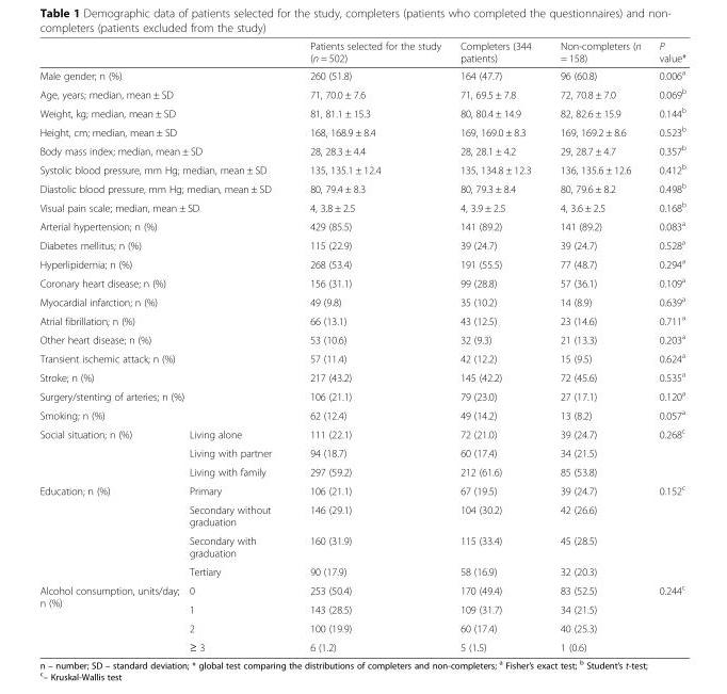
<table><thead><tr><td></td><td></td><td>Patients selected for the study (n = 502)</td><td>Completers (344 patients)</td><td>Non-completers (n = 158)</td><td>P value*</td></tr></thead><tbody><tr><td colspan="2">Male gender; n (%)</td><td>260 (51.8)</td><td>164 (47.7)</td><td>96 (60.8)</td><td>0.006<sup>a</sup></td></tr><tr><td colspan="2">Age, years; median, mean ± SD</td><td>71, 70.0 ± 7.6</td><td>71, 69.5 ± 7.8</td><td>72, 70.8 ± 7.0</td><td>0.069<sup>b</sup></td></tr><tr><td colspan="2">Weight, kg; median, mean ± SD</td><td>81, 81.1 ± 15.3</td><td>80, 80.4 ± 14.9</td><td>82, 82.6 ± 15.9</td><td>0.144<sup>b</sup></td></tr><tr><td colspan="2">Height, cm; median, mean ± SD</td><td>168, 168.9 ± 8.4</td><td>169, 169.0 ± 8.3</td><td>169, 169.2 ± 8.6</td><td>0.523<sup>b</sup></td></tr><tr><td colspan="2">Body mass index; median, mean ± SD</td><td>28, 28.3 ± 4.4</td><td>28, 28.1 ± 4.2</td><td>29, 28.7 ± 4.7</td><td>0.357<sup>b</sup></td></tr><tr><td colspan="2">Systolic blood pressure, mm Hg; median, mean ± SD</td><td>135, 135.1 ± 12.4</td><td>135, 134.8 ± 12.3</td><td>136, 135.6 ± 12.6</td><td>0.412<sup>b</sup></td></tr><tr><td colspan="2">Diastolic blood pressure, mm Hg; median, mean ± SD</td><td>80, 79.4 ± 8.3</td><td>80, 79.3 ± 8.4</td><td>80, 79.6 ± 8.2</td><td>0.498<sup>b</sup></td></tr><tr><td colspan="2">Visual pain scale; median, mean ± SD</td><td>4, 3.8 ± 2.5</td><td>4, 3.9 ± 2.5</td><td>4, 3.6 ± 2.5</td><td>0.168<sup>b</sup></td></tr><tr><td colspan="2">Arterial hypertension; n (%)</td><td>429 (85.5)</td><td>141 (89.2)</td><td>141 (89.2)</td><td>0.083<sup>a</sup></td></tr><tr><td colspan="2">Diabetes mellitus; n (%)</td><td>115 (22.9)</td><td>39 (24.7)</td><td>39 (24.7)</td><td>0.528<sup>a</sup></td></tr><tr><td colspan="2">Hyperlipidemia; n (%)</td><td>268 (53.4)</td><td>191 (55.5)</td><td>77 (48.7)</td><td>0.294<sup>a</sup></td></tr><tr><td colspan="2">Coronary heart disease; n (%)</td><td>156 (31.1)</td><td>99 (28.8)</td><td>57 (36.1)</td><td>0.109<sup>a</sup></td></tr><tr><td colspan="2">Myocardial infarction; n (%)</td><td>49 (9.8)</td><td>35 (10.2)</td><td>14 (8.9)</td><td>0.639<sup>a</sup></td></tr><tr><td colspan="2">Atrial fibrillation; n (%)</td><td>66 (13.1)</td><td>43 (12.5)</td><td>23 (14.6)</td><td>0.711<sup>a</sup></td></tr><tr><td colspan="2">Other heart disease; n (%)</td><td>53 (10.6)</td><td>32 (9.3)</td><td>21 (13.3)</td><td>0.203<sup>a</sup></td></tr><tr><td colspan="2">Transient ischemic attack; n (%)</td><td>57 (11.4)</td><td>42 (12.2)</td><td>15 (9.5)</td><td>0.624<sup>a</sup></td></tr><tr><td colspan="2">Stroke; n (%)</td><td>217 (43.2)</td><td>145 (42.2)</td><td>72 (45.6)</td><td>0.535<sup>a</sup></td></tr><tr><td colspan="2">Surgery/stenting of arteries; n (%)</td><td>106 (21.1)</td><td>79 (23.0)</td><td>27 (17.1)</td><td>0.120<sup>a</sup></td></tr><tr><td colspan="2">Smoking; n (%)</td><td>62 (12.4)</td><td>49 (14.2)</td><td>13 (8.2)</td><td>0.057<sup>a</sup></td></tr><tr><td rowspan="3">Social situation; n (%)</td><td>Living alone</td><td>111 (22.1)</td><td>72 (21.0)</td><td>39 (24.7)</td><td rowspan="3">0.268<sup>c</sup></td></tr><tr><td>Living with partner</td><td>94 (18.7)</td><td>60 (17.4)</td><td>34 (21.5)</td></tr><tr><td>Living with family</td><td>297 (59.2)</td><td>212 (61.6)</td><td>85 (53.8)</td></tr><tr><td rowspan="4">Education; n (%)</td><td>Primary</td><td>106 (21.1)</td><td>67 (19.5)</td><td>39 (24.7)</td><td rowspan="4">0.152<sup>c</sup></td></tr><tr><td>Secondary without graduation</td><td>146 (29.1)</td><td>104 (30.2)</td><td>42 (26.6)</td></tr><tr><td>Secondary with graduation</td><td>160 (31.9)</td><td>115 (33.4)</td><td>45 (28.5)</td></tr><tr><td>Tertiary</td><td>90 (17.9)</td><td>58 (16.9)</td><td>32 (20.3)</td></tr><tr><td rowspan="4">Alcohol consumption, units/day; n (%)</td><td>0</td><td>253 (50.4)</td><td>170 (49.4)</td><td>83 (52.5)</td><td rowspan="4">0.244<sup>c</sup></td></tr><tr><td>1</td><td>143 (28.5)</td><td>109 (31.7)</td><td>34 (21.5)</td></tr><tr><td>2</td><td>100 (19.9)</td><td>60 (17.4)</td><td>40 (25.3)</td></tr><tr><td>≥ 3</td><td>6 (1.2)</td><td>5 (1.5)</td><td>1 (0.6)</td></tr></tbody></table>